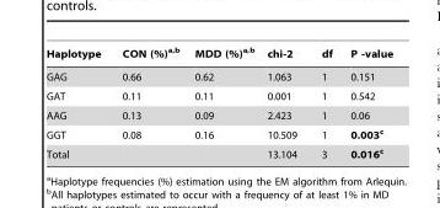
<table><thead><tr><td>Haplotype</td><td>CON (%)<sup>a,b</sup></td><td>MDD (%)<sup>a,b</sup></td><td>chi-2</td><td>df</td><td>P -value</td></tr></thead><tbody><tr><td>GAG</td><td>0.66</td><td>0.62</td><td>1.063</td><td>1</td><td>0.151</td></tr><tr><td>GAT</td><td>0.11</td><td>0.11</td><td>0.001</td><td>1</td><td>0.542</td></tr><tr><td>AAG</td><td>0.13</td><td>0.09</td><td>2.423</td><td>1</td><td>0.06</td></tr><tr><td>GGT</td><td>0.08</td><td>0.16</td><td>10.509</td><td>1</td><td>0.003c</td></tr><tr><td>Total</td><td></td><td></td><td>13.104</td><td>3</td><td>0.016c</td></tr></tbody></table>